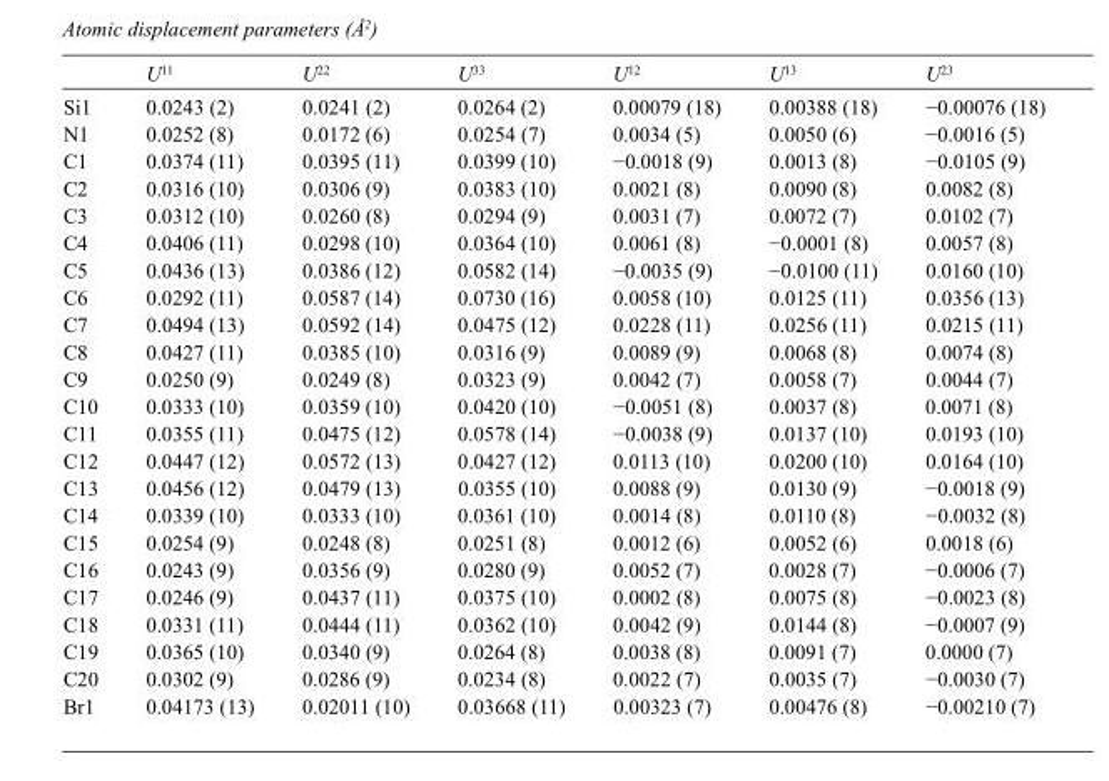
<table><thead><tr><td></td><td>U<sup>11</sup></td><td>U<sup>22</sup></td><td>U<sup>33</sup></td><td>U<sup>12</sup></td><td>U<sup>13</sup></td><td>U<sup>23</sup></td></tr></thead><tbody><tr><td>Si1</td><td>0.0243 (2)</td><td>0.0241 (2)</td><td>0.0264 (2)</td><td>0.00079 (18)</td><td>0.00388 (18)</td><td>−0.00076 (18)</td></tr><tr><td>N1</td><td>0.0252 (8)</td><td>0.0172 (6)</td><td>0.0254 (7)</td><td>0.0034 (5)</td><td>0.0050 (6)</td><td>−0.0016 (5)</td></tr><tr><td>C1</td><td>0.0374 (11)</td><td>0.0395 (11)</td><td>0.0399 (10)</td><td>−0.0018 (9)</td><td>0.0013 (8)</td><td>−0.0105 (9)</td></tr><tr><td>C2</td><td>0.0316 (10)</td><td>0.0306 (9)</td><td>0.0383 (10)</td><td>0.0021 (8)</td><td>0.0090 (8)</td><td>0.0082 (8)</td></tr><tr><td>C3</td><td>0.0312 (10)</td><td>0.0260 (8)</td><td>0.0294 (9)</td><td>0.0031 (7)</td><td>0.0072 (7)</td><td>0.0102 (7)</td></tr><tr><td>C4</td><td>0.0406 (11)</td><td>0.0298 (10)</td><td>0.0364 (10)</td><td>0.0061 (8)</td><td>−0.0001 (8)</td><td>0.0057 (8)</td></tr><tr><td>C5</td><td>0.0436 (13)</td><td>0.0386 (12)</td><td>0.0582 (14)</td><td>−0.0035 (9)</td><td>−0.0100 (11)</td><td>0.0160 (10)</td></tr><tr><td>C6</td><td>0.0292 (11)</td><td>0.0587 (14)</td><td>0.0730 (16)</td><td>0.0058 (10)</td><td>0.0125 (11)</td><td>0.0356 (13)</td></tr><tr><td>C7</td><td>0.0494 (13)</td><td>0.0592 (14)</td><td>0.0475 (12)</td><td>0.0228 (11)</td><td>0.0256 (11)</td><td>0.0215 (11)</td></tr><tr><td>C8</td><td>0.0427 (11)</td><td>0.0385 (10)</td><td>0.0316 (9)</td><td>0.0089 (9)</td><td>0.0068 (8)</td><td>0.0074 (8)</td></tr><tr><td>C9</td><td>0.0250 (9)</td><td>0.0249 (8)</td><td>0.0323 (9)</td><td>0.0042 (7)</td><td>0.0058 (7)</td><td>0.0044 (7)</td></tr><tr><td>C10</td><td>0.0333 (10)</td><td>0.0359 (10)</td><td>0.0420 (10)</td><td>−0.0051 (8)</td><td>0.0037 (8)</td><td>0.0071 (8)</td></tr><tr><td>C11</td><td>0.0355 (11)</td><td>0.0475 (12)</td><td>0.0578 (14)</td><td>−0.0038 (9)</td><td>0.0137 (10)</td><td>0.0193 (10)</td></tr><tr><td>C12</td><td>0.0447 (12)</td><td>0.0572 (13)</td><td>0.0427 (12)</td><td>0.0113 (10)</td><td>0.0200 (10)</td><td>0.0164 (10)</td></tr><tr><td>C13</td><td>0.0456 (12)</td><td>0.0479 (13)</td><td>0.0355 (10)</td><td>0.0088 (9)</td><td>0.0130 (9)</td><td>−0.0018 (9)</td></tr><tr><td>C14</td><td>0.0339 (10)</td><td>0.0333 (10)</td><td>0.0361 (10)</td><td>0.0014 (8)</td><td>0.0110 (8)</td><td>−0.0032 (8)</td></tr><tr><td>C15</td><td>0.0254 (9)</td><td>0.0248 (8)</td><td>0.0251 (8)</td><td>0.0012 (6)</td><td>0.0052 (6)</td><td>0.0018 (6)</td></tr><tr><td>C16</td><td>0.0243 (9)</td><td>0.0356 (9)</td><td>0.0280 (9)</td><td>0.0052 (7)</td><td>0.0028 (7)</td><td>−0.0006 (7)</td></tr><tr><td>C17</td><td>0.0246 (9)</td><td>0.0437 (11)</td><td>0.0375 (10)</td><td>0.0002 (8)</td><td>0.0075 (8)</td><td>−0.0023 (8)</td></tr><tr><td>C18</td><td>0.0331 (11)</td><td>0.0444 (11)</td><td>0.0362 (10)</td><td>0.0042 (9)</td><td>0.0144 (8)</td><td>−0.0007 (9)</td></tr><tr><td>C19</td><td>0.0365 (10)</td><td>0.0340 (9)</td><td>0.0264 (8)</td><td>0.0038 (8)</td><td>0.0091 (7)</td><td>0.0000 (7)</td></tr><tr><td>C20</td><td>0.0302 (9)</td><td>0.0286 (9)</td><td>0.0234 (8)</td><td>0.0022 (7)</td><td>0.0035 (7)</td><td>−0.0030 (7)</td></tr><tr><td>Br1</td><td>0.04173 (13)</td><td>0.02011 (10)</td><td>0.03668 (11)</td><td>0.00323 (7)</td><td>0.00476 (8)</td><td>−0.00210 (7)</td></tr></tbody></table>